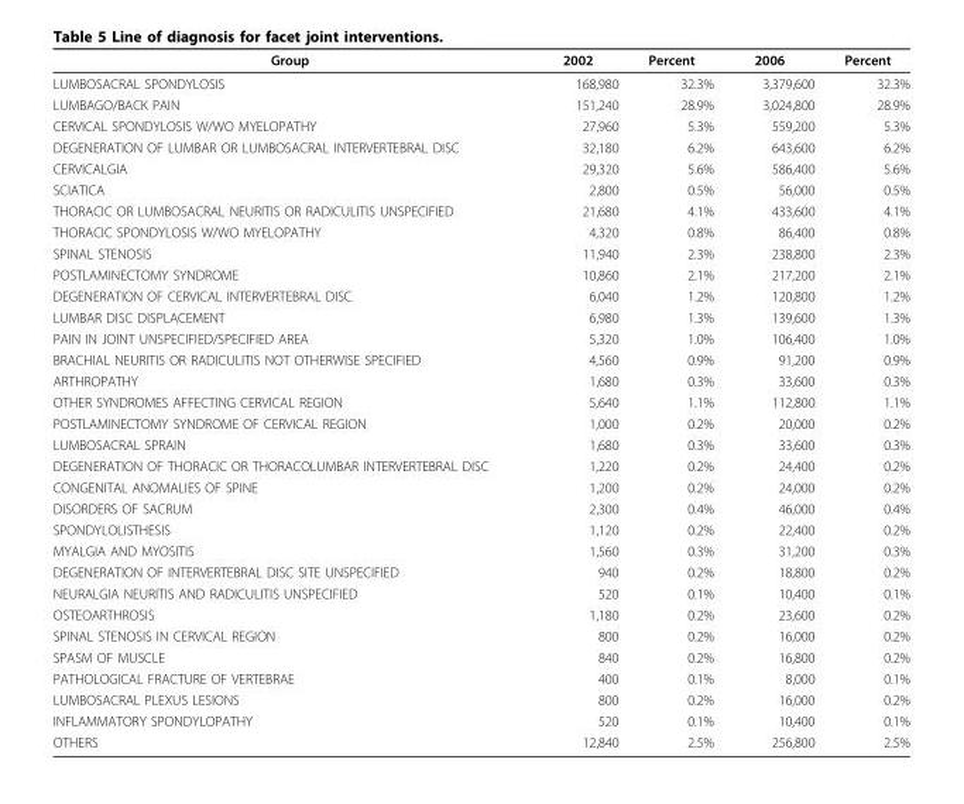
<table><thead><tr><td>Group</td><td>2002</td><td>Percent</td><td>2006</td><td>Percent</td></tr></thead><tbody><tr><td>LUMBOSACRAL SPONDYLOSIS</td><td>168,980</td><td>32.3%</td><td>3,379,600</td><td>32.3%</td></tr><tr><td>LUMBAGO/BACK PAIN</td><td>151,240</td><td>28.9%</td><td>3,024,800</td><td>28.9%</td></tr><tr><td>CERVICAL SPONDYLOSIS W/WO MYELOPATHY</td><td>27,960</td><td>5.3%</td><td>559,200</td><td>5.3%</td></tr><tr><td>DEGENERATION OF LUMBAR OR LUMBOSACRAL INTERVERTEBRAL DISC</td><td>32,180</td><td>6.2%</td><td>643,600</td><td>6.2%</td></tr><tr><td>CERVICALGIA</td><td>29,320</td><td>5.6%</td><td>586,400</td><td>5.6%</td></tr><tr><td>SCIATICA</td><td>2,800</td><td>0.5%</td><td>56,000</td><td>0.5%</td></tr><tr><td>THORACIC OR LUMBOSACRAL NEURITIS OR RADICULITIS UNSPECIFIED</td><td>21,680</td><td>4.1%</td><td>433,600</td><td>4.1%</td></tr><tr><td>THORACIC SPONDYLOSIS W/WO MYELOPATHY</td><td>4,320</td><td>0.8%</td><td>86,400</td><td>0.8%</td></tr><tr><td>SPINAL STENOSIS</td><td>11,940</td><td>2.3%</td><td>238,800</td><td>2.3%</td></tr><tr><td>POSTLAMINECTOMY SYNDROME</td><td>10,860</td><td>2.1%</td><td>217,200</td><td>2.1%</td></tr><tr><td>DEGENERATION OF CERVICAL INTERVERTEBRAL DISC</td><td>6,040</td><td>1.2%</td><td>120,800</td><td>1.2%</td></tr><tr><td>LUMBAR DISC DISPLACEMENT</td><td>6,980</td><td>1.3%</td><td>139,600</td><td>1.3%</td></tr><tr><td>PAIN IN JOINT UNSPECIFIED/SPECIFIED AREA</td><td>5,320</td><td>1.0%</td><td>106,400</td><td>1.0%</td></tr><tr><td>BRACHIAL NEURITIS OR RADICULITIS NOT OTHERWISE SPECIFIED</td><td>4,560</td><td>0.9%</td><td>91,200</td><td>0.9%</td></tr><tr><td>ARTHROPATHY</td><td>1,680</td><td>0.3%</td><td>33,600</td><td>0.3%</td></tr><tr><td>OTHER SYNDROMES AFFECTING CERVICAL REGION</td><td>5,640</td><td>1.1%</td><td>112,800</td><td>1.1%</td></tr><tr><td>POSTLAMINECTOMY SYNDROME OF CERVICAL REGION</td><td>1,000</td><td>0.2%</td><td>20,000</td><td>0.2%</td></tr><tr><td>LUMBOSACRAL SPRAIN</td><td>1,680</td><td>0.3%</td><td>33,600</td><td>0.3%</td></tr><tr><td>DEGENERATION OF THORACIC OR THORACOLUMBAR INTERVERTEBRAL DISC</td><td>1,220</td><td>0.2%</td><td>24,400</td><td>0.2%</td></tr><tr><td>CONGENITAL ANOMALIES OF SPINE</td><td>1,200</td><td>0.2%</td><td>24,000</td><td>0.2%</td></tr><tr><td>DISORDERS OF SACRUM</td><td>2,300</td><td>0.4%</td><td>46,000</td><td>0.4%</td></tr><tr><td>SPONDYLOLISTHESIS</td><td>1,120</td><td>0.2%</td><td>22,400</td><td>0.2%</td></tr><tr><td>MYALGIA AND MYOSITIS</td><td>1,560</td><td>0.3%</td><td>31,200</td><td>0.3%</td></tr><tr><td>DEGENERATION OF INTERVERTEBRAL DISC SITE UNSPECIFIED</td><td>940</td><td>0.2%</td><td>18,800</td><td>0.2%</td></tr><tr><td>NEURALGIA NEURITIS AND RADICULITIS UNSPECIFIED</td><td>520</td><td>0.1%</td><td>10,400</td><td>0.1%</td></tr><tr><td>OSTEOARTHROSIS</td><td>1,180</td><td>0.2%</td><td>23,600</td><td>0.2%</td></tr><tr><td>SPINAL STENOSIS IN CERVICAL REGION</td><td>800</td><td>0.2%</td><td>16,000</td><td>0.2%</td></tr><tr><td>SPASM OF MUSCLE</td><td>840</td><td>0.2%</td><td>16,800</td><td>0.2%</td></tr><tr><td>PATHOLOGICAL FRACTURE OF VERTEBRAE</td><td>400</td><td>0.1%</td><td>8,000</td><td>0.1%</td></tr><tr><td>LUMBOSACRAL PLEXUS LESIONS</td><td>800</td><td>0.2%</td><td>16,000</td><td>0.2%</td></tr><tr><td>INFLAMMATORY SPONDYLOPATHY</td><td>520</td><td>0.1%</td><td>10,400</td><td>0.1%</td></tr><tr><td>OTHERS</td><td>12,840</td><td>2.5%</td><td>256,800</td><td>2.5%</td></tr></tbody></table>